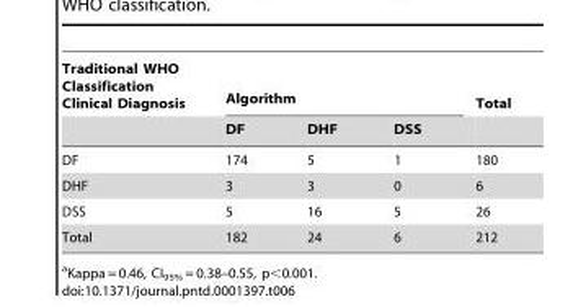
<table><thead><tr><td rowspan="2">Traditional WHO Classification Clinical Diagnosis</td><td colspan="3">Algorithm</td><td rowspan="2">Total</td></tr><tr><td>DF</td><td>DHF</td><td>DSS</td></tr></thead><tbody><tr><td>DF</td><td>174</td><td>5</td><td>1</td><td>180</td></tr><tr><td>DHF</td><td>3</td><td>3</td><td>0</td><td>6</td></tr><tr><td>DSS</td><td>5</td><td>16</td><td>5</td><td>26</td></tr><tr><td>Total</td><td>182</td><td>24</td><td>6</td><td>212</td></tr></tbody></table>